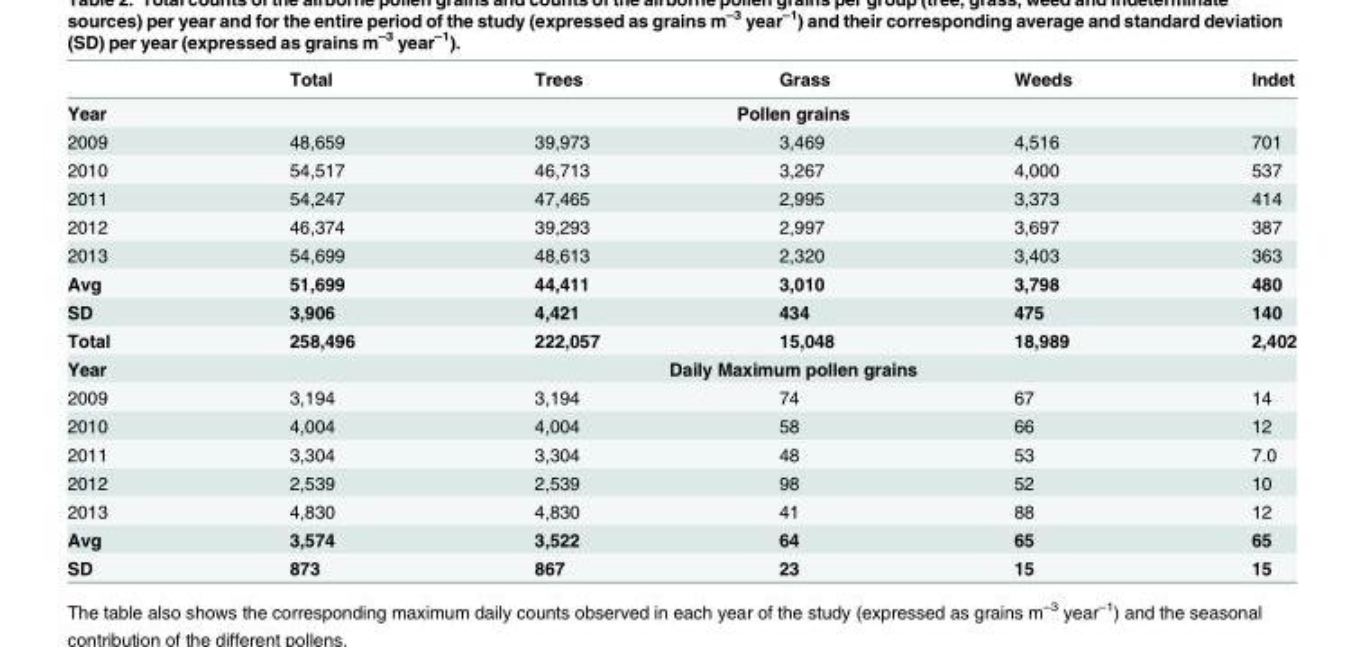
<table><thead><tr><td></td><td>Total</td><td>Trees</td><td>Grass</td><td>Weeds</td><td>Indet</td></tr></thead><tbody><tr><td>Year</td><td colspan="5">Pollen grains</td></tr><tr><td>2009</td><td>48,659</td><td>39,973</td><td>3,469</td><td>4,516</td><td>701</td></tr><tr><td>2010</td><td>54,517</td><td>46,713</td><td>3,267</td><td>4,000</td><td>537</td></tr><tr><td>2011</td><td>54,247</td><td>47,465</td><td>2,995</td><td>3,373</td><td>414</td></tr><tr><td>2012</td><td>46,374</td><td>39,293</td><td>2,997</td><td>3,697</td><td>387</td></tr><tr><td>2013</td><td>54,699</td><td>48,613</td><td>2,320</td><td>3,403</td><td>363</td></tr><tr><td>Avg</td><td>51,699</td><td>44,411</td><td>3,010</td><td>3,798</td><td>480</td></tr><tr><td>SD</td><td>3,906</td><td>4,421</td><td>434</td><td>475</td><td>140</td></tr><tr><td>Total</td><td>258,496</td><td>222,057</td><td>15,048</td><td>18,989</td><td>2,402</td></tr><tr><td>Year</td><td colspan="5">Daily Maximum pollen grains</td></tr><tr><td>2009</td><td>3,194</td><td>3,194</td><td>74</td><td>67</td><td>14</td></tr><tr><td>2010</td><td>4,004</td><td>4,004</td><td>58</td><td>66</td><td>12</td></tr><tr><td>2011</td><td>3,304</td><td>3,304</td><td>48</td><td>53</td><td>7.0</td></tr><tr><td>2012</td><td>2,539</td><td>2,539</td><td>98</td><td>52</td><td>10</td></tr><tr><td>2013</td><td>4,830</td><td>4,830</td><td>41</td><td>88</td><td>12</td></tr><tr><td>Avg</td><td>3,574</td><td>3,522</td><td>64</td><td>65</td><td>65</td></tr><tr><td>SD</td><td>873</td><td>867</td><td>23</td><td>15</td><td>15</td></tr></tbody></table>